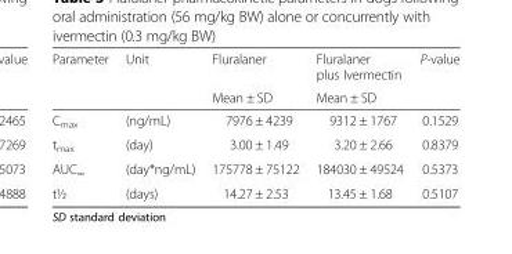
<table><thead><tr><td rowspan="2">Parameter</td><td rowspan="2">Unit</td><td rowspan="2">Fluralaner Mean ± SD</td><td rowspan="2">Fluralaner plus Ivermectin Mean ± SD</td><td rowspan="2">P-value</td></tr><tr></tr></thead><tbody><tr><td>C<sub>max</sub></td><td>(ng/mL)</td><td>7976 ± 4239</td><td>9312 ± 1767</td><td>0.1529</td></tr><tr><td>t<sub>max</sub></td><td>(day)</td><td>3.00 ± 1.49</td><td>3.20 ± 2.66</td><td>0.8379</td></tr><tr><td>AUC<sub>∞</sub></td><td>(day*ng/mL)</td><td>175778 ± 75122</td><td>184030 ± 49524</td><td>0.5373</td></tr><tr><td>t½</td><td>(days)</td><td>14.27 ± 2.53</td><td>13.45 ± 1.68</td><td>0.5107</td></tr></tbody></table>